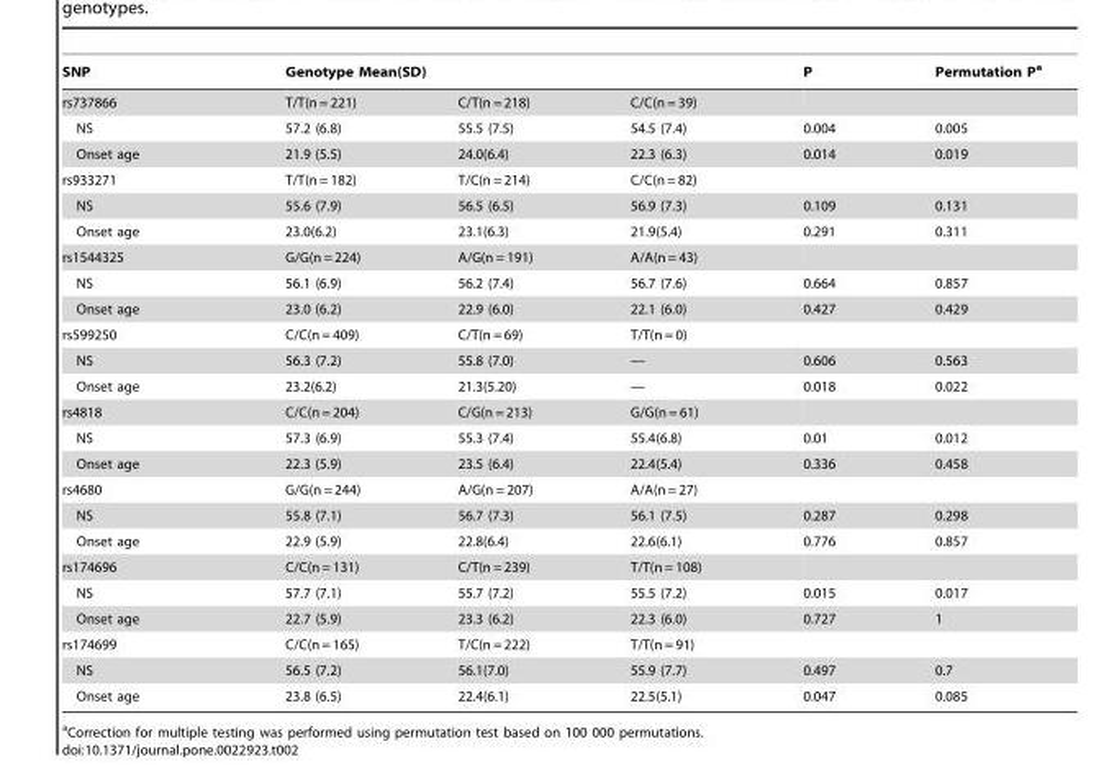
<table><thead><tr><td rowspan="2">SNP rs737866</td><td colspan="3">Genotype Mean(SD)</td><td rowspan="2">P</td><td rowspan="2">Permutation P<sup>a</sup></td></tr><tr><td>T/T(n = 221)</td><td>C/T(n = 218)</td><td>C/C(n = 39)</td></tr></thead><tbody><tr><td>NS</td><td>57.2 (6.8)</td><td>55.5 (7.5)</td><td>54.5 (7.4)</td><td>0.004</td><td>0.005</td></tr><tr><td>Onset age</td><td>21.9 (5.5)</td><td>24.0(6.4)</td><td>22.3 (6.3)</td><td>0.014</td><td>0.019</td></tr><tr><td>rs933271</td><td>T/T(n = 182)</td><td>T/C(n = 214)</td><td>C/C(n = 82)</td><td></td><td></td></tr><tr><td>NS</td><td>55.6 (7.9)</td><td>56.5 (6.5)</td><td>56.9 (7.3)</td><td>0.109</td><td>0.131</td></tr><tr><td>Onset age</td><td>23.0(6.2)</td><td>23.1(6.3)</td><td>21.9(5.4)</td><td>0.291</td><td>0.311</td></tr><tr><td>rs1544325</td><td>G/G(n = 224)</td><td>A/G(n = 191)</td><td>A/A(n = 43)</td><td></td><td></td></tr><tr><td>NS</td><td>56.1 (6.9)</td><td>56.2 (7.4)</td><td>56.7 (7.6)</td><td>0.664</td><td>0.857</td></tr><tr><td>Onset age</td><td>23.0 (6.2)</td><td>22.9 (6.0)</td><td>22.1 (6.0)</td><td>0.427</td><td>0.429</td></tr><tr><td>rs599250</td><td>C/C(n = 409)</td><td>C/T(n = 69)</td><td>T/T(n = 0)</td><td></td><td></td></tr><tr><td>NS</td><td>56.3 (7.2)</td><td>55.8 (7.0)</td><td>—</td><td>0.606</td><td>0.563</td></tr><tr><td>Onset age</td><td>23.2(6.2)</td><td>21.3(5.20)</td><td>—</td><td>0.018</td><td>0.022</td></tr><tr><td>rs4818</td><td>C/C(n = 204)</td><td>C/G(n = 213)</td><td>G/G(n = 61)</td><td></td><td></td></tr><tr><td>NS</td><td>57.3 (6.9)</td><td>55.3 (7.4)</td><td>55.4(6.8)</td><td>0.01</td><td>0.012</td></tr><tr><td>Onset age</td><td>22.3 (5.9)</td><td>23.5 (6.4)</td><td>22.4(5.4)</td><td>0.336</td><td>0.458</td></tr><tr><td>rs4680</td><td>G/G(n = 244)</td><td>A/G(n = 207)</td><td>A/A(n = 27)</td><td></td><td></td></tr><tr><td>NS</td><td>55.8 (7.1)</td><td>56.7 (7.3)</td><td>56.1 (7.5)</td><td>0.287</td><td>0.298</td></tr><tr><td>Onset age</td><td>22.9 (5.9)</td><td>22.8(6.4)</td><td>22.6(6.1)</td><td>0.776</td><td>0.857</td></tr><tr><td>rs174696</td><td>C/C(n = 131)</td><td>C/T(n = 239)</td><td>T/T(n = 108)</td><td></td><td></td></tr><tr><td>NS</td><td>57.7 (7.1)</td><td>55.7 (7.2)</td><td>55.5 (7.2)</td><td>0.015</td><td>0.017</td></tr><tr><td>Onset age</td><td>22.7 (5.9)</td><td>23.3 (6.2)</td><td>22.3 (6.0)</td><td>0.727</td><td>1</td></tr><tr><td>rs174699</td><td>C/C(n = 165)</td><td>T/C(n = 222)</td><td>T/T(n = 91)</td><td></td><td></td></tr><tr><td>NS</td><td>56.5 (7.2)</td><td>56.1(7.0)</td><td>55.9 (7.7)</td><td>0.497</td><td>0.7</td></tr><tr><td>Onset age</td><td>23.8 (6.5)</td><td>22.4(6.1)</td><td>22.5(5.1)</td><td>0.047</td><td>0.085</td></tr></tbody></table>